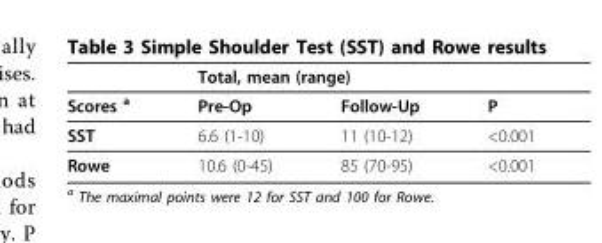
<table><thead><tr><td rowspan="2">Scores <sup>a</sup></td><td colspan="3">Total, mean (range)</td></tr><tr><td>Pre-Op</td><td>Follow-Up</td><td>P</td></tr></thead><tbody><tr><td>SST</td><td>6.6 (1-10)</td><td>11 (10-12)</td><td>&lt;0.001</td></tr><tr><td>Rowe</td><td>10.6 (0-45)</td><td>85 (70-95)</td><td>&lt;0.001</td></tr></tbody></table>